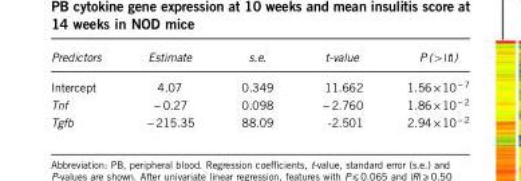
<table><thead><tr><td>Predictors</td><td>Estimate</td><td>s.e.</td><td>t-value</td><td>P (&gt;|t|)</td></tr></thead><tbody><tr><td>Intercept</td><td>4.07</td><td>0.349</td><td>11.662</td><td>1.56 × 10<sup>− 7</sup></td></tr><tr><td>Tnf</td><td>− 0.27</td><td>0.098</td><td>− 2.760</td><td>1.86 × 10<sup>− 2</sup></td></tr><tr><td>Tgfb</td><td>− 215.35</td><td>88.09</td><td>-2.501</td><td>2.94 × 10<sup>− 2</sup></td></tr></tbody></table>